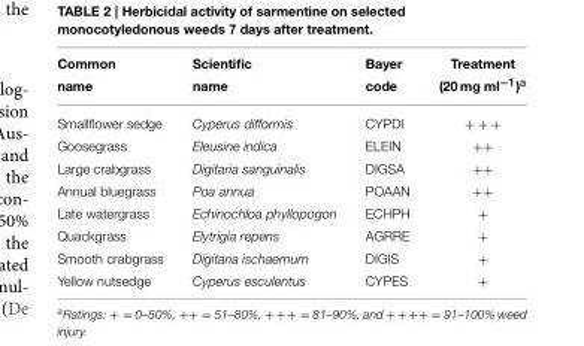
<table><thead><tr><td>Common name</td><td>Scientific name</td><td>Bayer code</td><td>Treatment (20 mg ml<sup>−1</sup>)<sup>a</sup></td></tr></thead><tbody><tr><td>Smallflower sedge</td><td>Cyperus difformis</td><td>CYPDI</td><td>+ + +</td></tr><tr><td>Goosegrass</td><td>Eleusine indica</td><td>ELEIN</td><td>++</td></tr><tr><td>Large crabgrass</td><td>Digitaria sanguinalis</td><td>DIGSA</td><td>++</td></tr><tr><td>Annual bluegrass</td><td>Poa annua</td><td>POAAN</td><td>++</td></tr><tr><td>Late watergrass</td><td>Echinochloa phyllopogon</td><td>ECHPH</td><td>+</td></tr><tr><td>Quackgrass</td><td>Elytrigia repens</td><td>AGRRE</td><td>+</td></tr><tr><td>Smooth crabgrass</td><td>Digitaria ischaemum</td><td>DIGIS</td><td>+</td></tr><tr><td>Yellow nutsedge</td><td>Cyperus esculentus</td><td>CYPES</td><td>+</td></tr></tbody></table>